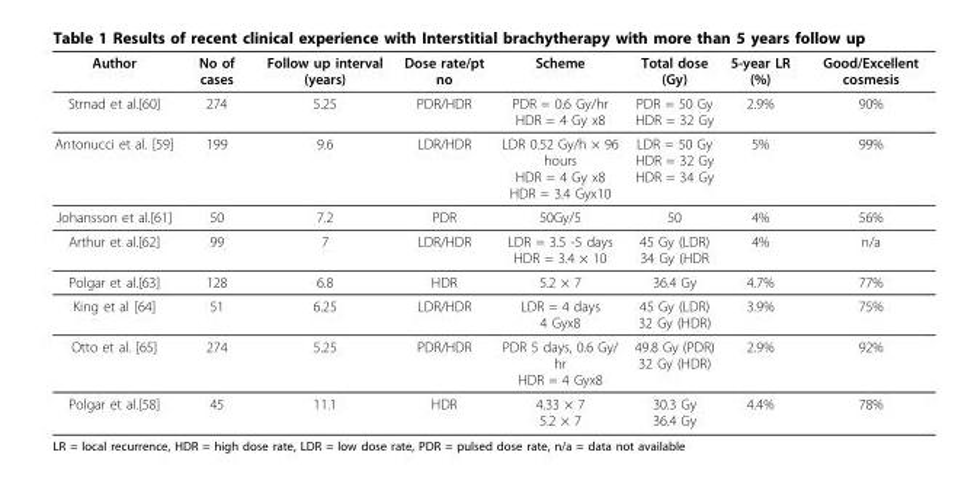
<table><thead><tr><td>Author</td><td>No of cases</td><td>Follow up interval (years)</td><td>Dose rate/pt no</td><td>Scheme</td><td>Total dose (Gy)</td><td>5-year LR (%)</td><td>Good/Excellent cosmesis</td></tr></thead><tbody><tr><td>Strnad et al.[60]</td><td>274</td><td>5.25</td><td>PDR/HDR</td><td>PDR = 0.6 Gy/hr HDR = 4 Gy x8</td><td>PDR = 50 Gy HDR = 32 Gy</td><td>2.9%</td><td>90%</td></tr><tr><td>Antonucci et al. [59]</td><td>199</td><td>9.6</td><td>LDR/HDR</td><td>LDR 0.52 Gy/h × 96 hours HDR = 4 Gy x8 HDR = 3.4 Gyx10</td><td>LDR = 50 Gy HDR = 32 Gy HDR = 34 Gy</td><td>5%</td><td>99%</td></tr><tr><td>Johansson et al.[61]</td><td>50</td><td>7.2</td><td>PDR</td><td>50Gy/5</td><td>50</td><td>4%</td><td>56%</td></tr><tr><td>Arthur et al.[62]</td><td>99</td><td>7</td><td>LDR/HDR</td><td>LDR = 3.5 -5 days HDR = 3.4 × 10</td><td>45 Gy (LDR) 34 Gy (HDR</td><td>4%</td><td>n/a</td></tr><tr><td>Polgar et al.[63]</td><td>128</td><td>6.8</td><td>HDR</td><td>5.2 × 7</td><td>36.4 Gy</td><td>4.7%</td><td>77%</td></tr><tr><td>King et al [64]</td><td>51</td><td>6.25</td><td>LDR/HDR</td><td>LDR = 4 days 4 Gyx8</td><td>45 Gy (LDR) 32 Gy (HDR)</td><td>3.9%</td><td>75%</td></tr><tr><td>Otto et al. [65]</td><td>274</td><td>5.25</td><td>PDR/HDR</td><td>PDR 5 days, 0.6 Gy/ hr HDR = 4 Gyx8</td><td>49.8 Gy (PDR) 32 Gy (HDR)</td><td>2.9%</td><td>92%</td></tr><tr><td>Polgar et al.[58]</td><td>45</td><td>11.1</td><td>HDR</td><td>4.33 × 7 5.2 × 7</td><td>30.3 Gy 36.4 Gy</td><td>4.4%</td><td>78%</td></tr></tbody></table>